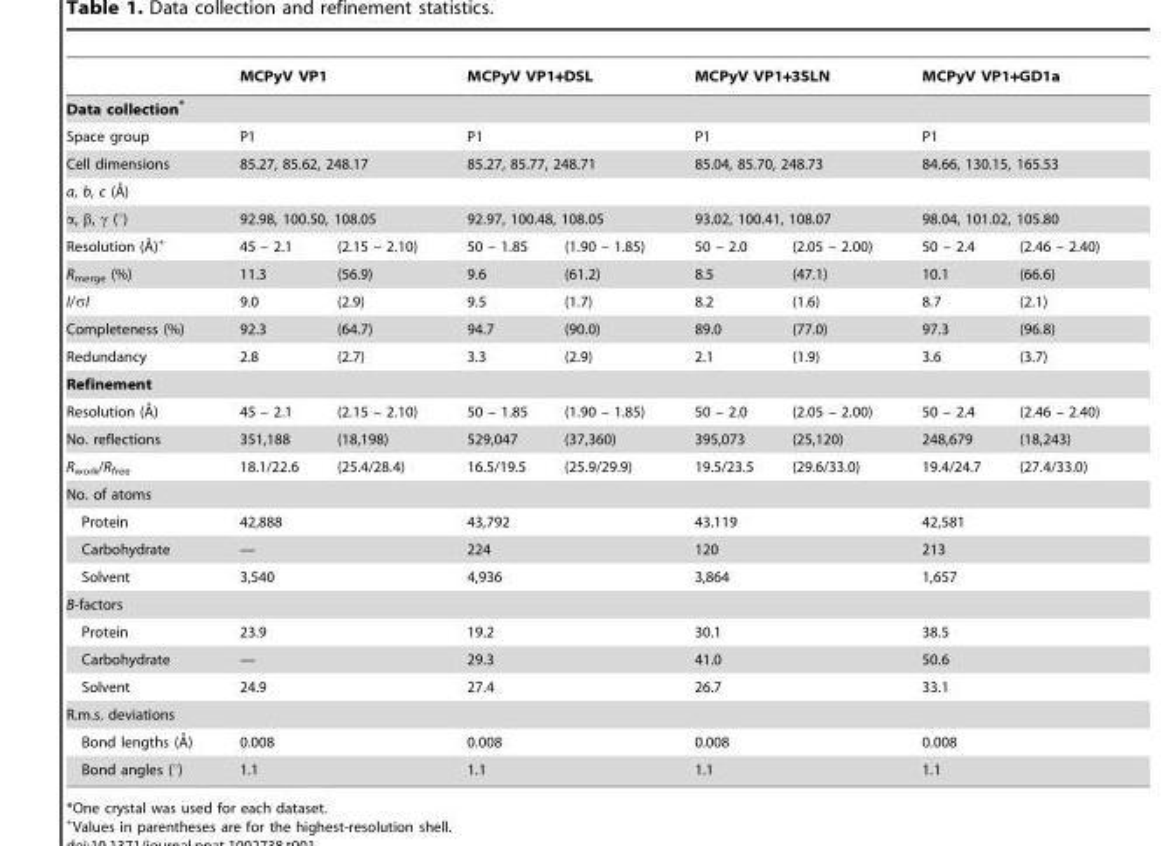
<table><thead><tr><td></td><td colspan="2">MCPyV VP1</td><td colspan="2">MCPyV VP1+DSL</td><td colspan="2">MCPyV VP1+3SLN</td><td colspan="2">MCPyV VP1+GD1a</td></tr></thead><tbody><tr><td colspan="9">Data collection*</td></tr><tr><td>Space group</td><td colspan="2">P1</td><td colspan="2">P1</td><td colspan="2">P1</td><td colspan="2">P1</td></tr><tr><td>Cell dimensions</td><td colspan="2">85.27, 85.62, 248.17</td><td colspan="2">85.27, 85.77, 248.71</td><td colspan="2">85.04, 85.70, 248.73</td><td colspan="2">84.66, 130.15, 165.53</td></tr><tr><td colspan="9">a, b, c (A˚)</td></tr><tr><td>α, β, γ (°)</td><td colspan="2">92.98, 100.50, 108.05</td><td colspan="2">92.97, 100.48, 108.05</td><td colspan="2">93.02, 100.41, 108.07</td><td colspan="2">98.04, 101.02, 105.80</td></tr><tr><td>Resolution (A˚)+</td><td>45 – 2.1</td><td>(2.15 – 2.10)</td><td>50 – 1.85</td><td>(1.90 – 1.85)</td><td>50 – 2.0</td><td>(2.05 – 2.00)</td><td>50 – 2.4</td><td>(2.46 – 2.40)</td></tr><tr><td>R<sub>merge</sub> (%)</td><td>11.3</td><td>(56.9)</td><td>9.6</td><td>(61.2)</td><td>8.5</td><td>(47.1)</td><td>10.1</td><td>(66.6)</td></tr><tr><td>I/σI</td><td>9.0</td><td>(2.9)</td><td>9.5</td><td>(1.7)</td><td>8.2</td><td>(1.6)</td><td>8.7</td><td>(2.1)</td></tr><tr><td>Completeness (%)</td><td>92.3</td><td>(64.7)</td><td>94.7</td><td>(90.0)</td><td>89.0</td><td>(77.0)</td><td>97.3</td><td>(96.8)</td></tr><tr><td>Redundancy</td><td>2.8</td><td>(2.7)</td><td>3.3</td><td>(2.9)</td><td>2.1</td><td>(1.9)</td><td>3.6</td><td>(3.7)</td></tr><tr><td colspan="9">Refinement</td></tr><tr><td>Resolution (A˚)</td><td>45 – 2.1</td><td>(2.15 – 2.10)</td><td>50 – 1.85</td><td>(1.90 – 1.85)</td><td>50 – 2.0</td><td>(2.05 – 2.00)</td><td>50 – 2.4</td><td>(2.46 – 2.40)</td></tr><tr><td>No. reflections</td><td>351,188</td><td>(18,198)</td><td>529,047</td><td>(37,360)</td><td>395,073</td><td>(25,120)</td><td>248,679</td><td>(18,243)</td></tr><tr><td>R<sub>work</sub>/R<sub>free</sub></td><td>18.1/22.6</td><td>(25.4/28.4)</td><td>16.5/19.5</td><td>(25.9/29.9)</td><td>19.5/23.5</td><td>(29.6/33.0)</td><td>19.4/24.7</td><td>(27.4/33.0)</td></tr><tr><td colspan="9">No. of atoms</td></tr><tr><td>Protein</td><td colspan="2">42,888</td><td colspan="2">43,792</td><td colspan="2">43.119</td><td colspan="2">42,581</td></tr><tr><td>Carbohydrate</td><td colspan="2">—</td><td colspan="2">224</td><td colspan="2">120</td><td colspan="2">213</td></tr><tr><td>Solvent</td><td colspan="2">3,540</td><td colspan="2">4,936</td><td colspan="2">3,864</td><td colspan="2">1,657</td></tr><tr><td colspan="9">B-factors</td></tr><tr><td>Protein</td><td colspan="2">23.9</td><td colspan="2">19.2</td><td colspan="2">30.1</td><td colspan="2">38.5</td></tr><tr><td>Carbohydrate</td><td colspan="2">—</td><td colspan="2">29.3</td><td colspan="2">41.0</td><td colspan="2">50.6</td></tr><tr><td>Solvent</td><td colspan="2">24.9</td><td colspan="2">27.4</td><td colspan="2">26.7</td><td colspan="2">33.1</td></tr><tr><td colspan="9">R.m.s. deviations</td></tr><tr><td>Bond lengths (A˚)</td><td colspan="2">0.008</td><td colspan="2">0.008</td><td colspan="2">0.008</td><td colspan="2">0.008</td></tr><tr><td>Bond angles (°)</td><td colspan="2">1.1</td><td colspan="2">1.1</td><td colspan="2">1.1</td><td colspan="2">1.1</td></tr></tbody></table>